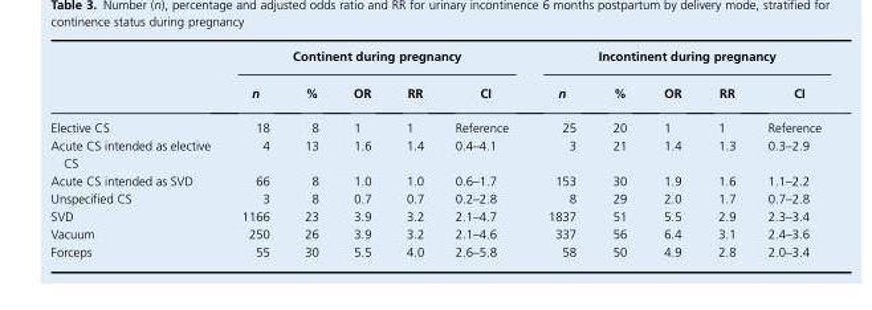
<table><thead><tr><td rowspan="2"></td><td colspan="5">Continent during pregnancy</td><td colspan="5">Incontinent during pregnancy</td></tr><tr><td>n</td><td>%</td><td>OR</td><td>RR</td><td>CI</td><td>n</td><td>%</td><td>OR</td><td>RR</td><td>CI</td></tr></thead><tbody><tr><td>Elective CS</td><td>18</td><td>8</td><td>1</td><td>1</td><td>Reference</td><td>25</td><td>20</td><td>1</td><td>1</td><td>Reference</td></tr><tr><td>Acute CS intended as elective CS</td><td>4</td><td>13</td><td>1.6</td><td>1.4</td><td>0.4–4.1</td><td>3</td><td>21</td><td>1.4</td><td>1.3</td><td>0.3–2.9</td></tr><tr><td>Acute CS intended as SVD</td><td>66</td><td>8</td><td>1.0</td><td>1.0</td><td>0.6–1.7</td><td>153</td><td>30</td><td>1.9</td><td>1.6</td><td>1.1–2.2</td></tr><tr><td>Unspecified CS</td><td>3</td><td>8</td><td>0.7</td><td>0.7</td><td>0.2–2.8</td><td>8</td><td>29</td><td>2.0</td><td>1.7</td><td>0.7–2.8</td></tr><tr><td>SVD</td><td>1166</td><td>23</td><td>3.9</td><td>3.2</td><td>2.1–4.7</td><td>1837</td><td>51</td><td>5.5</td><td>2.9</td><td>2.3–3.4</td></tr><tr><td>Vacuum</td><td>250</td><td>26</td><td>3.9</td><td>3.2</td><td>2.1–4.6</td><td>337</td><td>56</td><td>6.4</td><td>3.1</td><td>2.4–3.6</td></tr><tr><td>Forceps</td><td>55</td><td>30</td><td>5.5</td><td>4.0</td><td>2.6–5.8</td><td>58</td><td>50</td><td>4.9</td><td>2.8</td><td>2.0–3.4</td></tr></tbody></table>